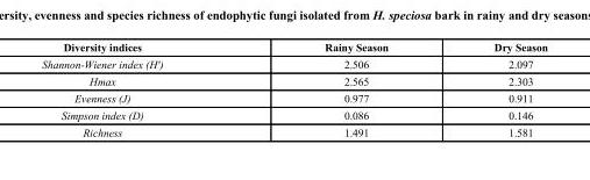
<table><thead><tr><td>Diversity indices</td><td>Rainy Season</td><td>Dry Season</td></tr></thead><tbody><tr><td>Shannon-Wiener index (H′)</td><td>2.506</td><td>2.097</td></tr><tr><td>Hmax</td><td>2.565</td><td>2.303</td></tr><tr><td>Evenness (J)</td><td>0.977</td><td>0.911</td></tr><tr><td>Simpson index (D)</td><td>0.086</td><td>0.146</td></tr><tr><td>Richness</td><td>1.491</td><td>1.581</td></tr></tbody></table>